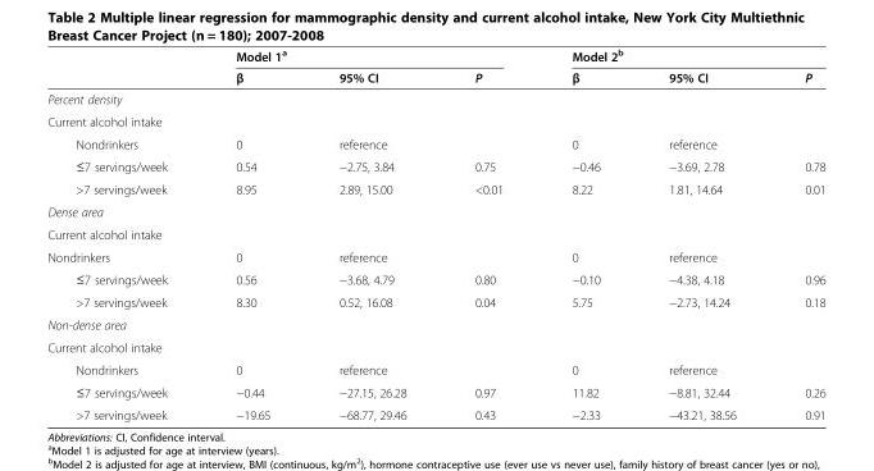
<table><thead><tr><td rowspan="2"></td><td colspan="3">Model 1<sup>a</sup></td><td colspan="3">Model 2<sup>b</sup></td></tr><tr><td>β</td><td>95% CI</td><td>P</td><td>β</td><td>95% CI</td><td>P</td></tr></thead><tbody><tr><td colspan="7">Percent density</td></tr><tr><td colspan="7">Current alcohol intake</td></tr><tr><td>Nondrinkers</td><td>0</td><td>reference</td><td></td><td>0</td><td>reference</td><td></td></tr><tr><td>≤7 servings/week</td><td>0.54</td><td>−2.75, 3.84</td><td>0.75</td><td>−0.46</td><td>−3.69, 2.78</td><td>0.78</td></tr><tr><td>&gt;7 servings/week</td><td>8.95</td><td>2.89, 15.00</td><td>&lt;0.01</td><td>8.22</td><td>1.81, 14.64</td><td>0.01</td></tr><tr><td colspan="7">Dense area</td></tr><tr><td colspan="7">Current alcohol intake</td></tr><tr><td>Nondrinkers</td><td>0</td><td>reference</td><td></td><td>0</td><td>reference</td><td></td></tr><tr><td>≤7 servings/week</td><td>0.56</td><td>−3.68, 4.79</td><td>0.80</td><td>−0.10</td><td>−4.38, 4.18</td><td>0.96</td></tr><tr><td>&gt;7 servings/week</td><td>8.30</td><td>0.52, 16.08</td><td>0.04</td><td>5.75</td><td>−2.73, 14.24</td><td>0.18</td></tr><tr><td colspan="7">Non-dense area</td></tr><tr><td colspan="7">Current alcohol intake</td></tr><tr><td>Nondrinkers</td><td>0</td><td>reference</td><td></td><td>0</td><td>reference</td><td></td></tr><tr><td>≤7 servings/week</td><td>−0.44</td><td>−27.15, 26.28</td><td>0.97</td><td>11.82</td><td>−8.81, 32.44</td><td>0.26</td></tr><tr><td>&gt;7 servings/week</td><td>−19.65</td><td>−68.77, 29.46</td><td>0.43</td><td>−2.33</td><td>−43.21, 38.56</td><td>0.91</td></tr></tbody></table>